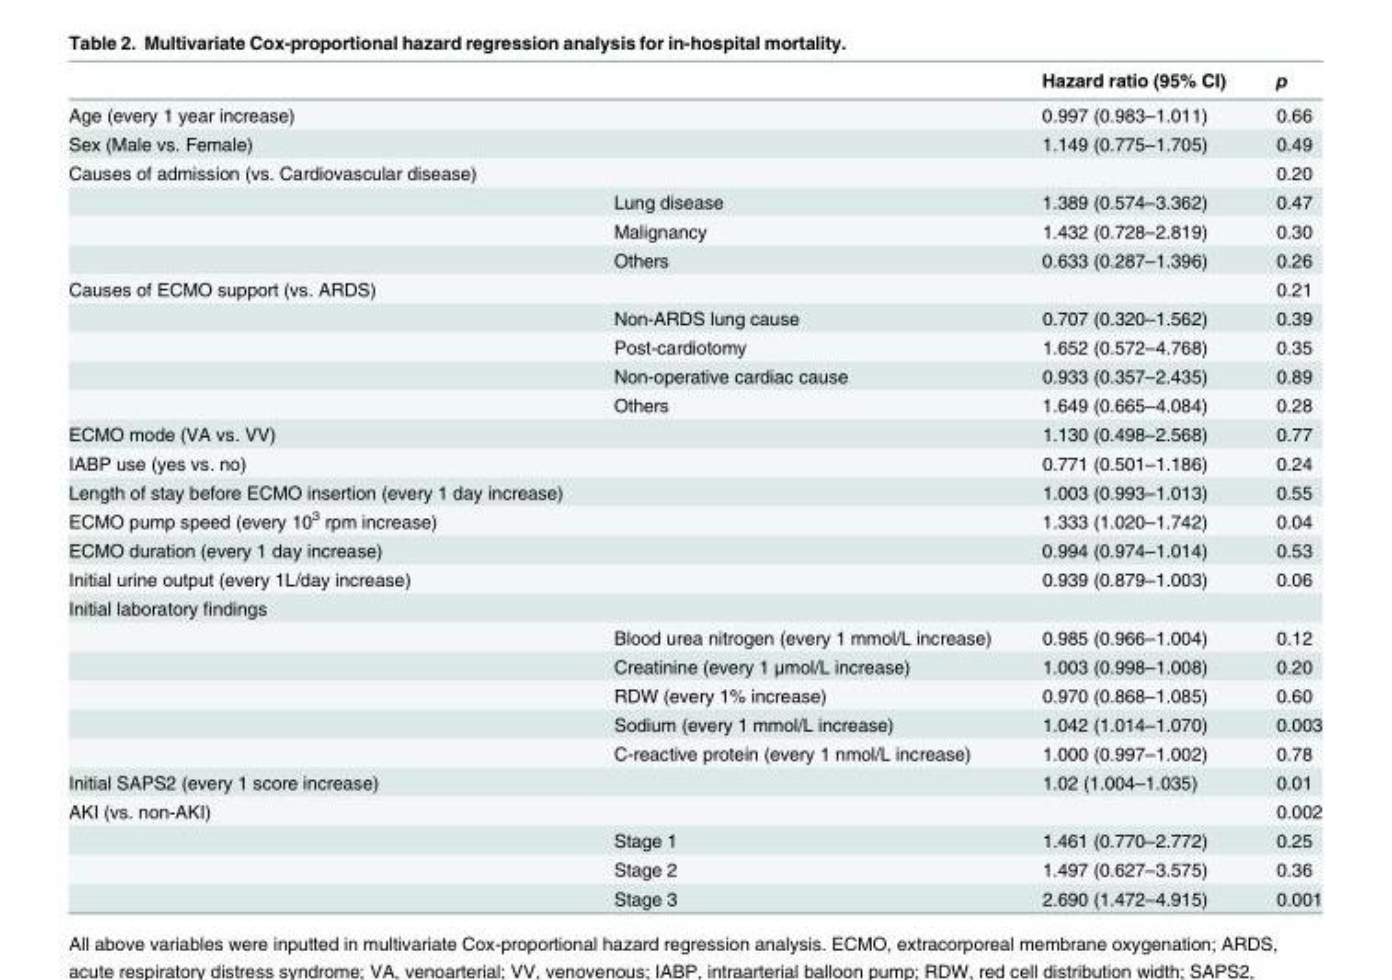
<table><thead><tr><td></td><td></td><td>Hazard ratio (95% CI)</td><td>p</td></tr></thead><tbody><tr><td>Age (every 1 year increase)</td><td></td><td>0.997 (0.983–1.011)</td><td>0.66</td></tr><tr><td>Sex (Male vs. Female)</td><td></td><td>1.149 (0.775–1.705)</td><td>0.49</td></tr><tr><td rowspan="4">Causes of admission (vs. Cardiovascular disease)</td><td></td><td></td><td>0.20</td></tr><tr><td>Lung disease</td><td>1.389 (0.574–3.362)</td><td>0.47</td></tr><tr><td>Malignancy</td><td>1.432 (0.728–2.819)</td><td>0.30</td></tr><tr><td>Others</td><td>0.633 (0.287–1.396)</td><td>0.26</td></tr><tr><td rowspan="5">Causes of ECMO support (vs. ARDS)</td><td></td><td></td><td>0.21</td></tr><tr><td>Non-ARDS lung cause</td><td>0.707 (0.320–1.562)</td><td>0.39</td></tr><tr><td>Post-cardiotomy</td><td>1.652 (0.572–4.768)</td><td>0.35</td></tr><tr><td>Non-operative cardiac cause</td><td>0.933 (0.357–2.435)</td><td>0.89</td></tr><tr><td>Others</td><td>1.649 (0.665–4.084)</td><td>0.28</td></tr><tr><td>ECMO mode (VA vs. VV)</td><td></td><td>1.130 (0.498–2.568)</td><td>0.77</td></tr><tr><td>IABP use (yes vs. no)</td><td></td><td>0.771 (0.501–1.186)</td><td>0.24</td></tr><tr><td>Length of stay before ECMO insertion (every 1 day increase)</td><td></td><td>1.003 (0.993–1.013)</td><td>0.55</td></tr><tr><td>ECMO pump speed (every 10<sup>3</sup> rpm increase)</td><td></td><td>1.333 (1.020–1.742)</td><td>0.04</td></tr><tr><td>ECMO duration (every 1 day increase)</td><td></td><td>0.994 (0.974–1.014)</td><td>0.53</td></tr><tr><td>Initial urine output (every 1L/day increase)</td><td></td><td>0.939 (0.879–1.003)</td><td>0.06</td></tr><tr><td colspan="4">Initial laboratory findings</td></tr><tr><td></td><td>Blood urea nitrogen (every 1 mmol/L increase)</td><td>0.985 (0.966–1.004)</td><td>0.12</td></tr><tr><td></td><td>Creatinine (every 1 μmol/L increase)</td><td>1.003 (0.998–1.008)</td><td>0.20</td></tr><tr><td></td><td>RDW (every 1% increase)</td><td>0.970 (0.868–1.085)</td><td>0.60</td></tr><tr><td></td><td>Sodium (every 1 mmol/L increase)</td><td>1.042 (1.014–1.070)</td><td>0.003</td></tr><tr><td></td><td>C-reactive protein (every 1 nmol/L increase)</td><td>1.000 (0.997–1.002)</td><td>0.78</td></tr><tr><td>Initial SAPS2 (every 1 score increase)</td><td></td><td>1.02 (1.004–1.035)</td><td>0.01</td></tr><tr><td rowspan="4">AKI (vs. non-AKI)</td><td></td><td></td><td>0.002</td></tr><tr><td>Stage 1</td><td>1.461 (0.770–2.772)</td><td>0.25</td></tr><tr><td>Stage 2</td><td>1.497 (0.627–3.575)</td><td>0.36</td></tr><tr><td>Stage 3</td><td>2.690 (1.472–4.915)</td><td>0.001</td></tr></tbody></table>